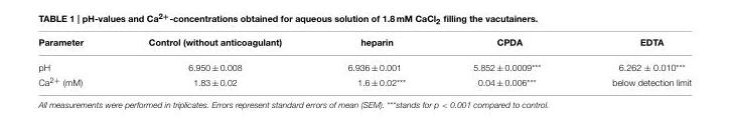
<table><thead><tr><td>Parameter</td><td>Control (without anticoagulant)</td><td>heparin</td><td>CPDA</td><td>EDTA</td></tr></thead><tbody><tr><td>pH</td><td>6.950 ± 0.008</td><td>6.936 ± 0.001</td><td>5.852 ± 0.0009***</td><td>6.262 ± 0.010***</td></tr><tr><td>Ca2+ (mM)</td><td>1.83 ± 0.02</td><td>1.6 ± 0.02***</td><td>0.04 ± 0.006***</td><td>below detection limit</td></tr></tbody></table>